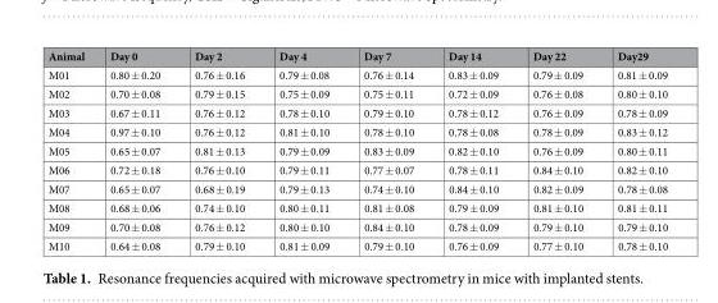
<table><thead><tr><td>Animal</td><td>Day 0</td><td>Day 2</td><td>Day 4</td><td>Day 7</td><td>Day 14</td><td>Day 22</td><td>Day29</td></tr></thead><tbody><tr><td>M01</td><td>0.80 ± 0.20</td><td>0.76 ± 0.16</td><td>0.79 ± 0.08</td><td>0.76 ± 0.14</td><td>0.83 ± 0.09</td><td>0.79 ± 0.09</td><td>0.81 ± 0.09</td></tr><tr><td>M02</td><td>0.70 ± 0.08</td><td>0.79 ± 0.15</td><td>0.75 ± 0.09</td><td>0.75 ± 0.11</td><td>0.72 ± 0.09</td><td>0.76 ± 0.08</td><td>0.80 ± 0.10</td></tr><tr><td>M03</td><td>0.67 ± 0.11</td><td>0.76 ± 0.12</td><td>0.78 ± 0.10</td><td>0.79 ± 0.10</td><td>0.78 ± 0.12</td><td>0.76 ± 0.09</td><td>0.78 ± 0.09</td></tr><tr><td>M04</td><td>0.97 ± 0.10</td><td>0.76 ± 0.12</td><td>0.81 ± 0.10</td><td>0.78 ± 0.10</td><td>0.78 ± 0.08</td><td>0.78 ± 0.09</td><td>0.83 ± 0.12</td></tr><tr><td>M05</td><td>0.65 ± 0.07</td><td>0.81 ± 0.13</td><td>0.79 ± 0.09</td><td>0.83 ± 0.09</td><td>0.82 ± 0.10</td><td>0.76 ± 0.09</td><td>0.80 ± 0.11</td></tr><tr><td>M06</td><td>0.72 ± 0.18</td><td>0.76 ± 0.10</td><td>0.79 ± 0.11</td><td>0.77 ± 0.07</td><td>0.78 ± 0.11</td><td>0.84 ± 0.10</td><td>0.82 ± 0.10</td></tr><tr><td>M07</td><td>0.65 ± 0.07</td><td>0.68 ± 0.19</td><td>0.79 ± 0.13</td><td>0.74 ± 0.10</td><td>0.84 ± 0.10</td><td>0.82 ± 0.09</td><td>0.78 ± 0.08</td></tr><tr><td>M08</td><td>0.68 ± 0.06</td><td>0.74 ± 0.10</td><td>0.80 ± 0.11</td><td>0.81 ± 0.08</td><td>0.79 ± 0.09</td><td>0.81 ± 0.10</td><td>0.81 ± 0.11</td></tr><tr><td>M09</td><td>0.70 ± 0.08</td><td>0.76 ± 0.12</td><td>0.80 ± 0.10</td><td>0.84 ± 0.10</td><td>0.78 ± 0.09</td><td>0.79 ± 0.10</td><td>0.79 ± 0.10</td></tr><tr><td>M10</td><td>0.64 ± 0.08</td><td>0.79 ± 0.10</td><td>0.81 ± 0.09</td><td>0.79 ± 0.10</td><td>0.76 ± 0.09</td><td>0.77 ± 0.10</td><td>0.78 ± 0.10</td></tr></tbody></table>